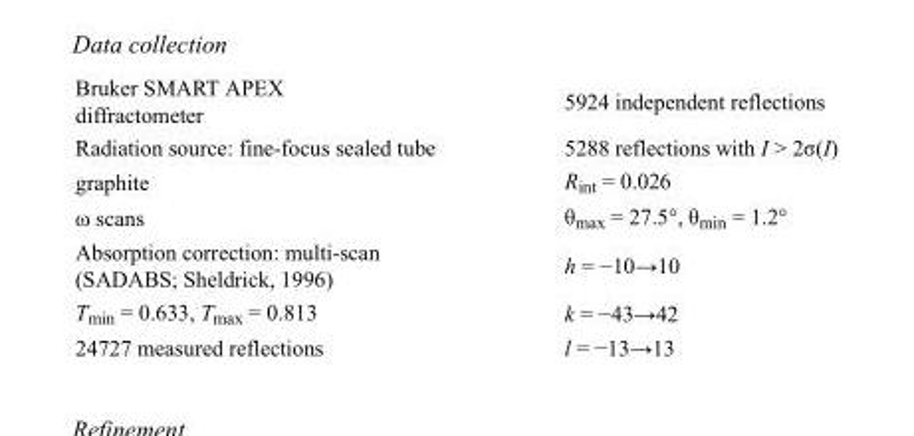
<table><tbody><tr><td>Bruker SMART APEX diffractometer</td><td>5924 independent reflections</td></tr><tr><td>Radiation source: fine-focus sealed tube</td><td>5288 reflections with I &gt; 2σ(I)</td></tr><tr><td>graphite</td><td>R<sub>int</sub> = 0.026</td></tr><tr><td>ω scans</td><td>θ<sub>max</sub> = 27.5°, θ<sub>min</sub> = 1.2°</td></tr><tr><td>Absorption correction: multi-scan (SADABS; Sheldrick, 1996)</td><td>h = −10→10</td></tr><tr><td>T<sub>min</sub> = 0.633, T<sub>max</sub> = 0.813</td><td>k = −43→42</td></tr><tr><td>24727 measured reflections</td><td>l = −13→13</td></tr></tbody></table>